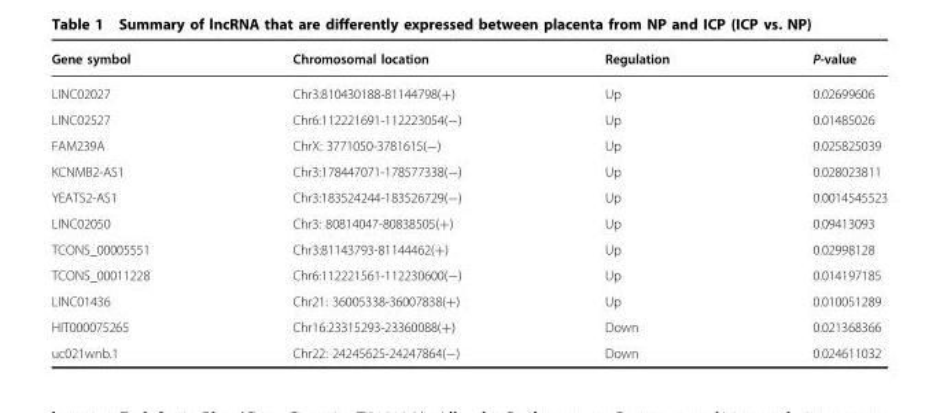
<table><thead><tr><td>Gene symbol</td><td>Chromosomal location</td><td>Regulation</td><td>P-value</td></tr></thead><tbody><tr><td>LINC02027</td><td>Chr3:810430188-81144798(+)</td><td>Up</td><td>0.02699606</td></tr><tr><td>LINC02527</td><td>Chr6:112221691-112223054(−)</td><td>Up</td><td>0.01485026</td></tr><tr><td>FAM239A</td><td>ChrX: 3771050-3781615(−)</td><td>Up</td><td>0.025825039</td></tr><tr><td>KCNMB2-AS1</td><td>Chr3:178447071-178577338(−)</td><td>Up</td><td>0.028023811</td></tr><tr><td>YEATS2-AS1</td><td>Chr3:183524244-183526729(−)</td><td>Up</td><td>0.0014545523</td></tr><tr><td>LINC02050</td><td>Chr3: 80814047-80838505(+)</td><td>Up</td><td>0.09413093</td></tr><tr><td>TCONS_00005551</td><td>Chr3:81143793-81144462(+)</td><td>Up</td><td>0.02998128</td></tr><tr><td>TCONS_00011228</td><td>Chr6:112221561-112230600(−)</td><td>Up</td><td>0.014197185</td></tr><tr><td>LINC01436</td><td>Chr21: 36005338-36007838(+)</td><td>Up</td><td>0.010051289</td></tr><tr><td>HIT000075265</td><td>Chr16:23315293-23360088(+)</td><td>Down</td><td>0.021368366</td></tr><tr><td>uc021wnb.1</td><td>Chr22: 24245625-24247864(−)</td><td>Down</td><td>0.024611032</td></tr></tbody></table>